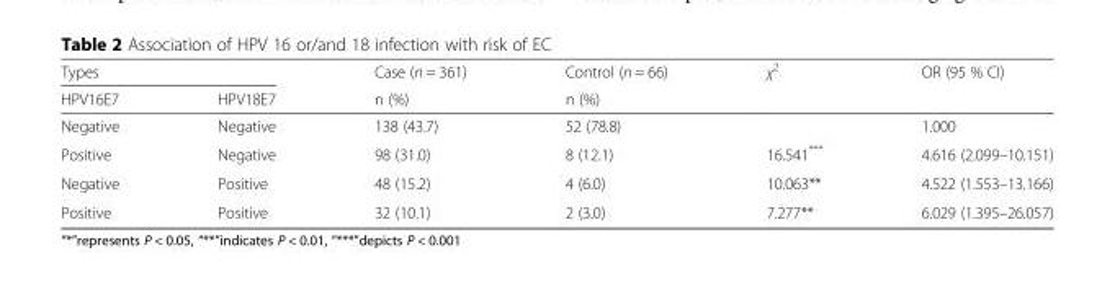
<table><thead><tr><td colspan="2">Types</td><td rowspan="2">Case (n = 361) n (%)</td><td rowspan="2">Control (n = 66) n (%)</td><td rowspan="2">χ<sup>2</sup></td><td rowspan="2">OR (95 % CI)</td></tr><tr><td>HPV16E7</td><td>HPV18E7</td></tr></thead><tbody><tr><td>Negative</td><td>Negative</td><td>138 (43.7)</td><td>52 (78.8)</td><td></td><td>1.000</td></tr><tr><td>Positive</td><td>Negative</td><td>98 (31.0)</td><td>8 (12.1)</td><td>16.541***</td><td>4.616 (2.099–10.151)</td></tr><tr><td>Negative</td><td>Positive</td><td>48 (15.2)</td><td>4 (6.0)</td><td>10.063**</td><td>4.522 (1.553–13.166)</td></tr><tr><td>Positive</td><td>Positive</td><td>32 (10.1)</td><td>2 (3.0)</td><td>7.277**</td><td>6.029 (1.395–26.057)</td></tr></tbody></table>